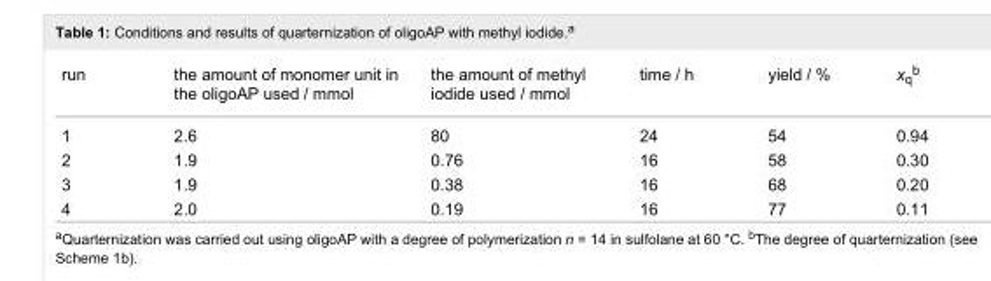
<table><tbody><tr><td>run</td><td>the amount of monomer unit in the oligoAP used / mmol</td><td>the amount of methyl iodide used / mmol</td><td>time / h</td><td>yield / %</td><td>x<sub>q</sub><sup>b</sup></td></tr><tr><td>1</td><td>2.6</td><td>80</td><td>24</td><td>54</td><td>0.94</td></tr><tr><td>2</td><td>1.9</td><td>0.76</td><td>16</td><td>58</td><td>0.30</td></tr><tr><td>3</td><td>1.9</td><td>0.38</td><td>16</td><td>68</td><td>0.20</td></tr><tr><td>4</td><td>2.0</td><td>0.19</td><td>16</td><td>77</td><td>0.11</td></tr></tbody></table>